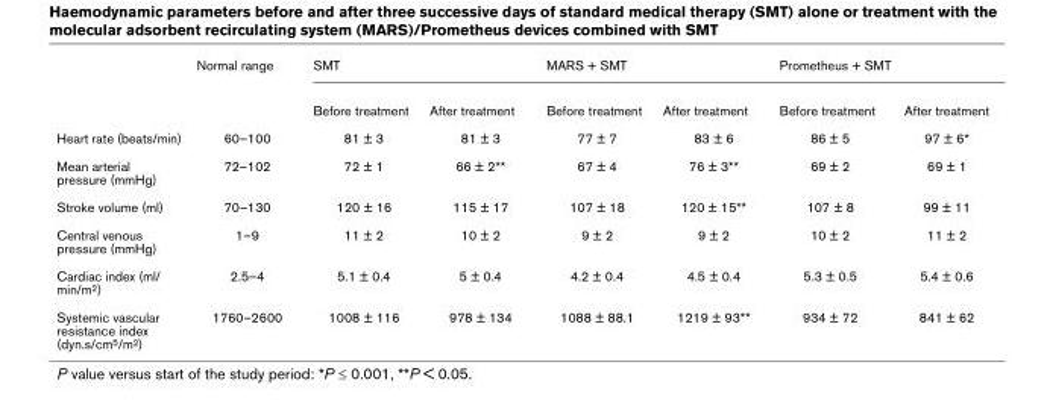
<table><thead><tr><td rowspan="2"></td><td rowspan="2">Normal range</td><td colspan="2">SMT</td><td colspan="2">MARS + SMT</td><td colspan="2">Prometheus + SMT</td></tr><tr><td>Before treatment</td><td>After treatment</td><td>Before treatment</td><td>After treatment</td><td>Before treatment</td><td>After treatment</td></tr></thead><tbody><tr><td>Heart rate (beats/min)</td><td>60–100</td><td>81 ± 3</td><td>81 ± 3</td><td>77 ± 7</td><td>83 ± 6</td><td>86 ± 5</td><td>97 ± 6*</td></tr><tr><td>Mean arterial pressure (mmHg)</td><td>72–102</td><td>72 ± 1</td><td>66 ± 2**</td><td>67 ± 4</td><td>76 ± 3**</td><td>69 ± 2</td><td>69 ± 1</td></tr><tr><td>Stroke volume (ml)</td><td>70–130</td><td>120 ± 16</td><td>115 ± 17</td><td>107 ± 18</td><td>120 ± 15**</td><td>107 ± 8</td><td>99 ± 11</td></tr><tr><td>Central venous pressure (mmHg)</td><td>1–9</td><td>11 ± 2</td><td>10 ± 2</td><td>9 ± 2</td><td>9 ± 2</td><td>10 ± 2</td><td>11 ± 2</td></tr><tr><td>Cardiac index (ml/ min/m2)</td><td>2.5–4</td><td>5.1 ± 0.4</td><td>5 ± 0.4</td><td>4.2 ± 0.4</td><td>4.5 ± 0.4</td><td>5.3 ± 0.5</td><td>5.4 ± 0.6</td></tr><tr><td>Systemic vascular resistance index (dyn.s/cm5/m2)</td><td>1760–2600</td><td>1008 ± 116</td><td>978 ± 134</td><td>1088 ± 88.1</td><td>1219 ± 93**</td><td>934 ± 72</td><td>841 ± 62</td></tr></tbody></table>